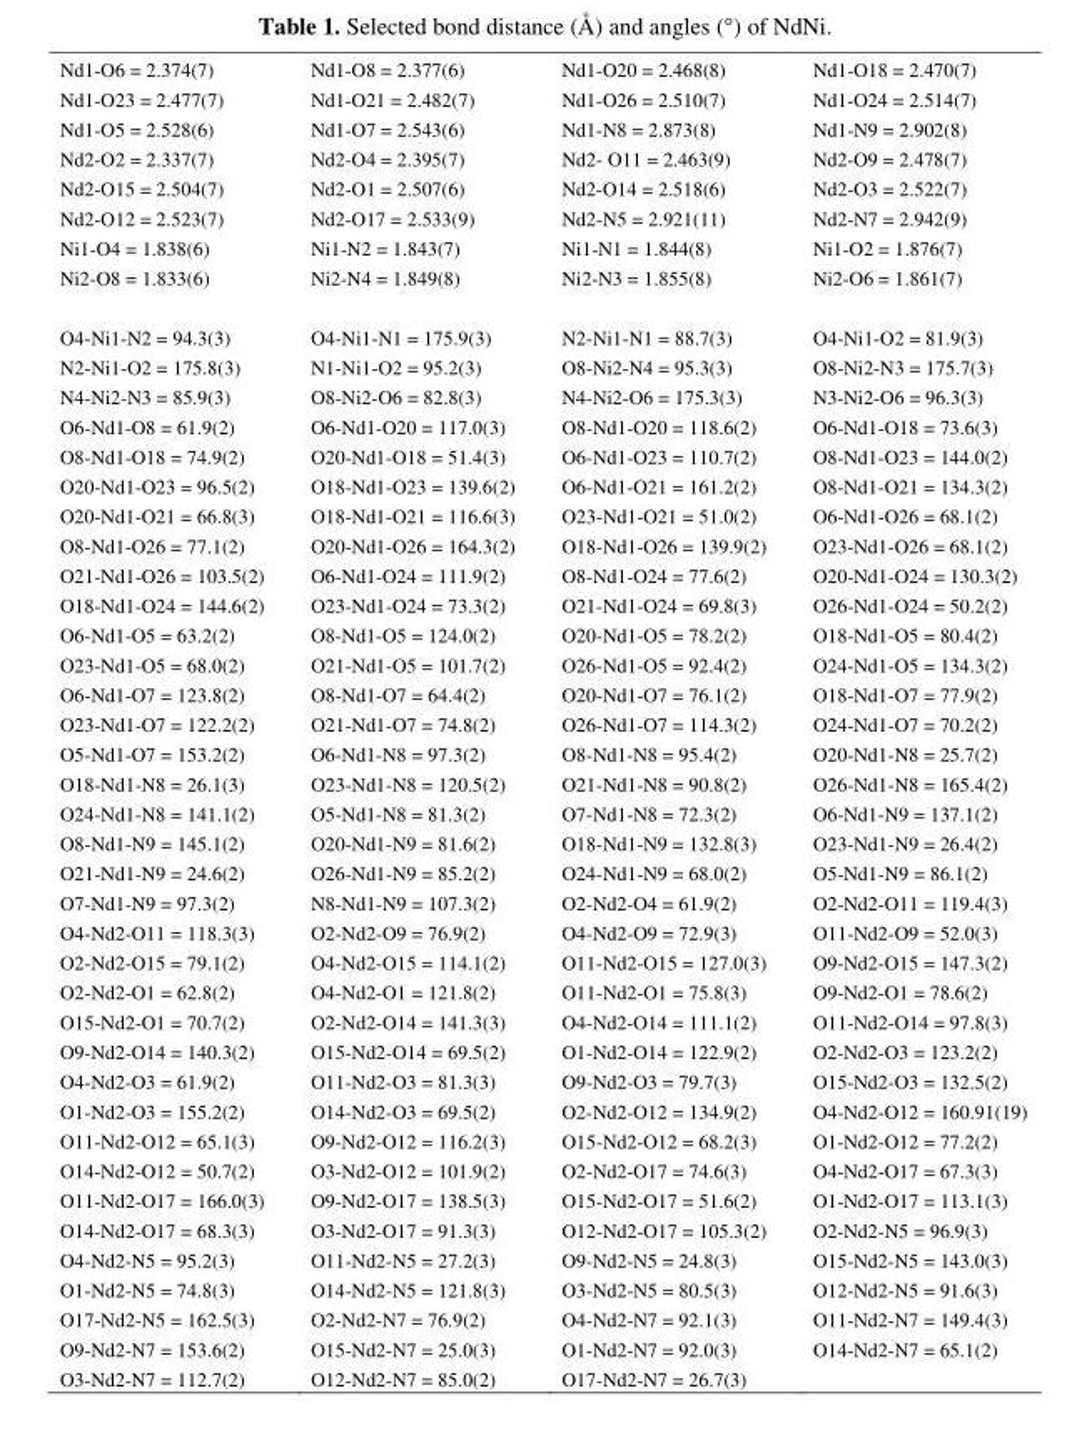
<table><tbody><tr><td>Nd1-O6 = 2.374(7)</td><td>Nd1-O8 = 2.377(6)</td><td>Nd1-O20 = 2.468(8)</td><td>Nd1-O18 = 2.470(7)</td></tr><tr><td>Nd1-O23 = 2.477(7)</td><td>Nd1-O21 = 2.482(7)</td><td>Nd1-O26 = 2.510(7)</td><td>Nd1-O24 = 2.514(7)</td></tr><tr><td>Nd1-O5 = 2.528(6)</td><td>Nd1-O7 = 2.543(6)</td><td>Nd1-N8 = 2.873(8)</td><td>Nd1-N9 = 2.902(8)</td></tr><tr><td>Nd2-O2 = 2.337(7)</td><td>Nd2-O4 = 2.395(7)</td><td>Nd2- O11 = 2.463(9)</td><td>Nd2-O9 = 2.478(7)</td></tr><tr><td>Nd2-O15 = 2.504(7)</td><td>Nd2-O1 = 2.507(6)</td><td>Nd2-O14 = 2.518(6)</td><td>Nd2-O3 = 2.522(7)</td></tr><tr><td>Nd2-O12 = 2.523(7)</td><td>Nd2-O17 = 2.533(9)</td><td>Nd2-N5 = 2.921(11)</td><td>Nd2-N7 = 2.942(9)</td></tr><tr><td>Ni1-O4 = 1.838(6)</td><td>Ni1-N2 = 1.843(7)</td><td>Ni1-N1 = 1.844(8)</td><td>Ni1-O2 = 1.876(7)</td></tr><tr><td>Ni2-O8 = 1.833(6)</td><td>Ni2-N4 = 1.849(8)</td><td>Ni2-N3 = 1.855(8)</td><td>Ni2-O6 = 1.861(7)</td></tr><tr><td>O4-Ni1-N2 = 94.3(3)</td><td>O4-Ni1-N1 = 175.9(3)</td><td>N2-Ni1-N1 = 88.7(3)</td><td>O4-Ni1-O2 = 81.9(3)</td></tr><tr><td>N2-Ni1-O2 = 175.8(3)</td><td>N1-Ni1-O2 = 95.2(3)</td><td>O8-Ni2-N4 = 95.3(3)</td><td>O8-Ni2-N3 = 175.7(3)</td></tr><tr><td>N4-Ni2-N3 = 85.9(3)</td><td>O8-Ni2-O6 = 82.8(3)</td><td>N4-Ni2-O6 = 175.3(3)</td><td>N3-Ni2-O6 = 96.3(3)</td></tr><tr><td>O6-Nd1-O8 = 61.9(2)</td><td>O6-Nd1-O20 = 117.0(3)</td><td>O8-Nd1-O20 = 118.6(2)</td><td>O6-Nd1-O18 = 73.6(3)</td></tr><tr><td>O8-Nd1-O18 = 74.9(2)</td><td>O20-Nd1-O18 = 51.4(3)</td><td>O6-Nd1-O23 = 110.7(2)</td><td>O8-Nd1-O23 = 144.0(2)</td></tr><tr><td>O20-Nd1-O23 = 96.5(2)</td><td>O18-Nd1-O23 = 139.6(2)</td><td>O6-Nd1-O21 = 161.2(2)</td><td>O8-Nd1-O21 = 134.3(2)</td></tr><tr><td>O20-Nd1-O21 = 66.8(3)</td><td>O18-Nd1-O21 = 116.6(3)</td><td>O23-Nd1-O21 = 51.0(2)</td><td>O6-Nd1-O26 = 68.1(2)</td></tr><tr><td>O8-Nd1-O26 = 77.1(2)</td><td>O20-Nd1-O26 = 164.3(2)</td><td>O18-Nd1-O26 = 139.9(2)</td><td>O23-Nd1-O26 = 68.1(2)</td></tr><tr><td>O21-Nd1-O26 = 103.5(2)</td><td>O6-Nd1-O24 = 111.9(2)</td><td>O8-Nd1-O24 = 77.6(2)</td><td>O20-Nd1-O24 = 130.3(2)</td></tr><tr><td>O18-Nd1-O24 = 144.6(2)</td><td>O23-Nd1-O24 = 73.3(2)</td><td>O21-Nd1-O24 = 69.8(3)</td><td>O26-Nd1-O24 = 50.2(2)</td></tr><tr><td>O6-Nd1-O5 = 63.2(2)</td><td>O8-Nd1-O5 = 124.0(2)</td><td>O20-Nd1-O5 = 78.2(2)</td><td>O18-Nd1-O5 = 80.4(2)</td></tr><tr><td>O23-Nd1-O5 = 68.0(2)</td><td>O21-Nd1-O5 = 101.7(2)</td><td>O26-Nd1-O5 = 92.4(2)</td><td>O24-Nd1-O5 = 134.3(2)</td></tr><tr><td>O6-Nd1-O7 = 123.8(2)</td><td>O8-Nd1-O7 = 64.4(2)</td><td>O20-Nd1-O7 = 76.1(2)</td><td>O18-Nd1-O7 = 77.9(2)</td></tr><tr><td>O23-Nd1-O7 = 122.2(2)</td><td>O21-Nd1-O7 = 74.8(2)</td><td>O26-Nd1-O7 = 114.3(2)</td><td>O24-Nd1-O7 = 70.2(2)</td></tr><tr><td>O5-Nd1-O7 = 153.2(2)</td><td>O6-Nd1-N8 = 97.3(2)</td><td>O8-Nd1-N8 = 95.4(2)</td><td>O20-Nd1-N8 = 25.7(2)</td></tr><tr><td>O18-Nd1-N8 = 26.1(3)</td><td>O23-Nd1-N8 = 120.5(2)</td><td>O21-Nd1-N8 = 90.8(2)</td><td>O26-Nd1-N8 = 165.4(2)</td></tr><tr><td>O24-Nd1-N8 = 141.1(2)</td><td>O5-Nd1-N8 = 81.3(2)</td><td>O7-Nd1-N8 = 72.3(2)</td><td>O6-Nd1-N9 = 137.1(2)</td></tr><tr><td>O8-Nd1-N9 = 145.1(2)</td><td>O20-Nd1-N9 = 81.6(2)</td><td>O18-Nd1-N9 = 132.8(3)</td><td>O23-Nd1-N9 = 26.4(2)</td></tr><tr><td>O21-Nd1-N9 = 24.6(2)</td><td>O26-Nd1-N9 = 85.2(2)</td><td>O24-Nd1-N9 = 68.0(2)</td><td>O5-Nd1-N9 = 86.1(2)</td></tr><tr><td>O7-Nd1-N9 = 97.3(2)</td><td>N8-Nd1-N9 = 107.3(2)</td><td>O2-Nd2-O4 = 61.9(2)</td><td>O2-Nd2-O11 = 119.4(3)</td></tr><tr><td>O4-Nd2-O11 = 118.3(3)</td><td>O2-Nd2-O9 = 76.9(2)</td><td>O4-Nd2-O9 = 72.9(3)</td><td>O11-Nd2-O9 = 52.0(3)</td></tr><tr><td>O2-Nd2-O15 = 79.1(2)</td><td>O4-Nd2-O15 = 114.1(2)</td><td>O11-Nd2-O15 = 127.0(3)</td><td>O9-Nd2-O15 = 147.3(2)</td></tr><tr><td>O2-Nd2-O1 = 62.8(2)</td><td>O4-Nd2-O1 = 121.8(2)</td><td>O11-Nd2-O1 = 75.8(3)</td><td>O9-Nd2-O1 = 78.6(2)</td></tr><tr><td>O15-Nd2-O1 = 70.7(2)</td><td>O2-Nd2-O14 = 141.3(3)</td><td>O4-Nd2-O14 = 111.1(2)</td><td>O11-Nd2-O14 = 97.8(3)</td></tr><tr><td>O9-Nd2-O14 = 140.3(2)</td><td>O15-Nd2-O14 = 69.5(2)</td><td>O1-Nd2-O14 = 122.9(2)</td><td>O2-Nd2-O3 = 123.2(2)</td></tr><tr><td>O4-Nd2-O3 = 61.9(2)</td><td>O11-Nd2-O3 = 81.3(3)</td><td>O9-Nd2-O3 = 79.7(3)</td><td>O15-Nd2-O3 = 132.5(2)</td></tr><tr><td>O1-Nd2-O3 = 155.2(2)</td><td>O14-Nd2-O3 = 69.5(2)</td><td>O2-Nd2-O12 = 134.9(2)</td><td>O4-Nd2-O12 = 160.91(19)</td></tr><tr><td>O11-Nd2-O12 = 65.1(3)</td><td>O9-Nd2-O12 = 116.2(3)</td><td>O15-Nd2-O12 = 68.2(3)</td><td>O1-Nd2-O12 = 77.2(2)</td></tr><tr><td>O14-Nd2-O12 = 50.7(2)</td><td>O3-Nd2-O12 = 101.9(2)</td><td>O2-Nd2-O17 = 74.6(3)</td><td>O4-Nd2-O17 = 67.3(3)</td></tr><tr><td>O11-Nd2-O17 = 166.0(3)</td><td>O9-Nd2-O17 = 138.5(3)</td><td>O15-Nd2-O17 = 51.6(2)</td><td>O1-Nd2-O17 = 113.1(3)</td></tr><tr><td>O14-Nd2-O17 = 68.3(3)</td><td>O3-Nd2-O17 = 91.3(3)</td><td>O12-Nd2-O17 = 105.3(2)</td><td>O2-Nd2-N5 = 96.9(3)</td></tr><tr><td>O4-Nd2-N5 = 95.2(3)</td><td>O11-Nd2-N5 = 27.2(3)</td><td>O9-Nd2-N5 = 24.8(3)</td><td>O15-Nd2-N5 = 143.0(3)</td></tr><tr><td>O1-Nd2-N5 = 74.8(3)</td><td>O14-Nd2-N5 = 121.8(3)</td><td>O3-Nd2-N5 = 80.5(3)</td><td>O12-Nd2-N5 = 91.6(3)</td></tr><tr><td>O17-Nd2-N5 = 162.5(3)</td><td>O2-Nd2-N7 = 76.9(2)</td><td>O4-Nd2-N7 = 92.1(3)</td><td>O11-Nd2-N7 = 149.4(3)</td></tr><tr><td>O9-Nd2-N7 = 153.6(2)</td><td>O15-Nd2-N7 = 25.0(3)</td><td>O1-Nd2-N7 = 92.0(3)</td><td>O14-Nd2-N7 = 65.1(2)</td></tr><tr><td>O3-Nd2-N7 = 112.7(2)</td><td>O12-Nd2-N7 = 85.0(2)</td><td>O17-Nd2-N7 = 26.7(3)</td><td></td></tr></tbody></table>